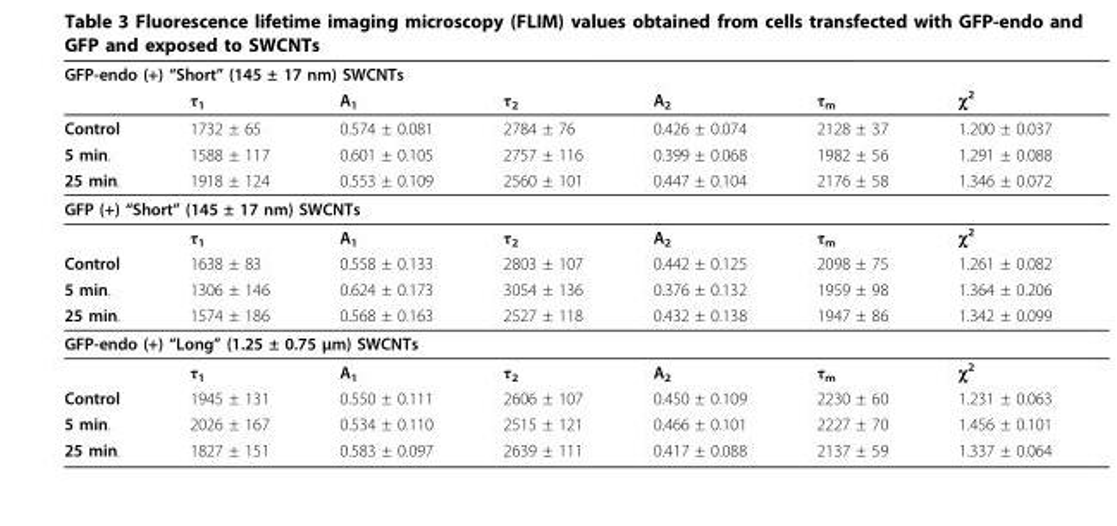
<table><thead><tr><td colspan="7">GFP-endo (+) “Short” (145 ± 17 nm) SWCNTs</td></tr><tr><td></td><td>τ1</td><td>A1</td><td>τ2</td><td>A2</td><td>τm</td><td>χ2</td></tr></thead><tbody><tr><td>Control</td><td>1732 ± 65</td><td>0.574 ± 0.081</td><td>2784 ± 76</td><td>0.426 ± 0.074</td><td>2128 ± 37</td><td>1.200 ± 0.037</td></tr><tr><td>5 min.</td><td>1588 ± 117</td><td>0.601 ± 0.105</td><td>2757 ± 116</td><td>0.399 ± 0.068</td><td>1982 ± 56</td><td>1.291 ± 0.088</td></tr><tr><td>25 min.</td><td>1918 ± 124</td><td>0.553 ± 0.109</td><td>2560 ± 101</td><td>0.447 ± 0.104</td><td>2176 ± 58</td><td>1.346 ± 0.072</td></tr><tr><td colspan="7">GFP (+) “Short” (145 ± 17 nm) SWCNTs</td></tr><tr><td></td><td>τ1</td><td>A1</td><td>τ2</td><td>A2</td><td>τm</td><td>χ2</td></tr><tr><td>Control</td><td>1638 ± 83</td><td>0.558 ± 0.133</td><td>2803 ± 107</td><td>0.442 ± 0.125</td><td>2098 ± 75</td><td>1.261 ± 0.082</td></tr><tr><td>5 min.</td><td>1306 ± 146</td><td>0.624 ± 0.173</td><td>3054 ± 136</td><td>0.376 ± 0.132</td><td>1959 ± 98</td><td>1.364 ± 0.206</td></tr><tr><td>25 min.</td><td>1574 ± 186</td><td>0.568 ± 0.163</td><td>2527 ± 118</td><td>0.432 ± 0.138</td><td>1947 ± 86</td><td>1.342 ± 0.099</td></tr><tr><td colspan="7">GFP-endo (+) “Long” (1.25 ± 0.75 μm) SWCNTs</td></tr><tr><td></td><td>τ1</td><td>A1</td><td>τ2</td><td>A2</td><td>τm</td><td>χ2</td></tr><tr><td>Control</td><td>1945 ± 131</td><td>0.550 ± 0.111</td><td>2606 ± 107</td><td>0.450 ± 0.109</td><td>2230 ± 60</td><td>1.231 ± 0.063</td></tr><tr><td>5 min.</td><td>2026 ± 167</td><td>0.534 ± 0.110</td><td>2515 ± 121</td><td>0.466 ± 0.101</td><td>2227 ± 70</td><td>1.456 ± 0.101</td></tr><tr><td>25 min.</td><td>1827 ± 151</td><td>0.583 ± 0.097</td><td>2639 ± 111</td><td>0.417 ± 0.088</td><td>2137 ± 59</td><td>1.337 ± 0.064</td></tr></tbody></table>